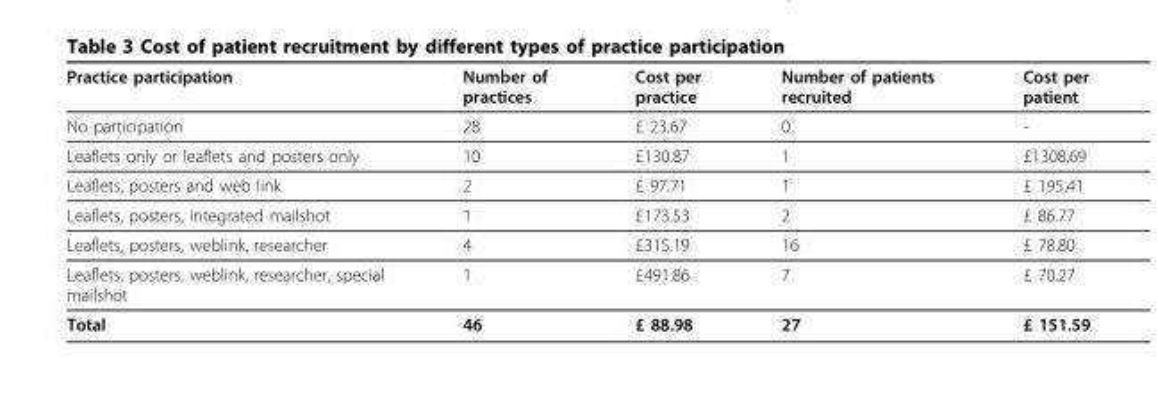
<table><thead><tr><td>Practice participation</td><td>Number of practices</td><td>Cost per practice</td><td>Number of patients recruited</td><td>Cost per patient</td></tr></thead><tbody><tr><td>No participation</td><td>28</td><td>£ 23.67</td><td>0</td><td>-</td></tr><tr><td>Leaflets only or leaflets and posters only</td><td>10</td><td>£130.87</td><td>1</td><td>£1308.69</td></tr><tr><td>Leaflets, posters and web link</td><td>2</td><td>£ 97.71</td><td>1</td><td>£ 195.41</td></tr><tr><td>Leaflets, posters, integrated mailshot</td><td>1</td><td>£173.53</td><td>2</td><td>£ 86.77</td></tr><tr><td>Leaflets, posters, weblink, researcher</td><td>4</td><td>£315.19</td><td>16</td><td>£ 78.80</td></tr><tr><td>Leaflets, posters, weblink, researcher, special mailshot</td><td>1</td><td>£491.86</td><td>7</td><td>£ 70.27</td></tr><tr><td>Total</td><td>46</td><td>£ 88.98</td><td>27</td><td>£ 151.59</td></tr></tbody></table>